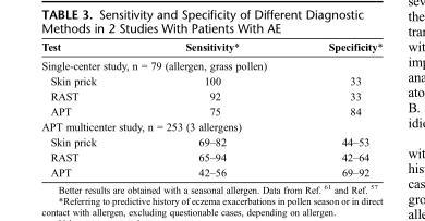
<table><thead><tr><td>Test</td><td>Sensitivity*</td><td>Specificity*</td></tr></thead><tbody><tr><td colspan="3">Single-center study, n = 79 (allergen, grass pollen)</td></tr><tr><td>Skin prick</td><td>100</td><td>33</td></tr><tr><td>RAST</td><td>92</td><td>33</td></tr><tr><td>APT</td><td>75</td><td>84</td></tr><tr><td colspan="3">APT multicenter study, n = 253 (3 allergens)</td></tr><tr><td>Skin prick</td><td>69Y82</td><td>44Y53</td></tr><tr><td>RAST</td><td>65Y94</td><td>42Y64</td></tr><tr><td>APT</td><td>42Y56</td><td>69Y92</td></tr></tbody></table>